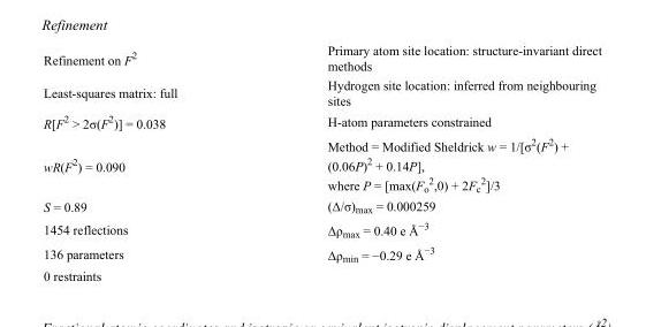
<table><tbody><tr><td>Refinement on F<sup>2</sup></td><td>Primary atom site location: structure-invariant direct methods</td></tr><tr><td>Least-squares matrix: full</td><td>Hydrogen site location: inferred from neighbouring sites</td></tr><tr><td>R[F<sup>2</sup> &gt; 2σ(F<sup>2</sup>)] = 0.038</td><td>H-atom parameters constrained</td></tr><tr><td>wR(F<sup>2</sup>) = 0.090</td><td>Method = Modified Sheldrick w = 1/[σ<sup>2</sup>(F<sup>2</sup>) + (0.06P)<sup>2</sup> + 0.14P], where P = [max(F<sub>o</sub> <sup>2</sup>,0) + 2F<sub>c</sub> <sup>2</sup>]/3</td></tr><tr><td>S = 0.89</td><td>(Δ/σ)<sub>max</sub> = 0.000259</td></tr><tr><td>1454 reflections</td><td>Δρ<sub>max</sub> = 0.40 e Å<sup>−3</sup></td></tr><tr><td>136 parameters</td><td>Δρ<sub>min</sub> = −0.29 e Å<sup>−3</sup></td></tr><tr><td>0 restraints</td><td></td></tr></tbody></table>